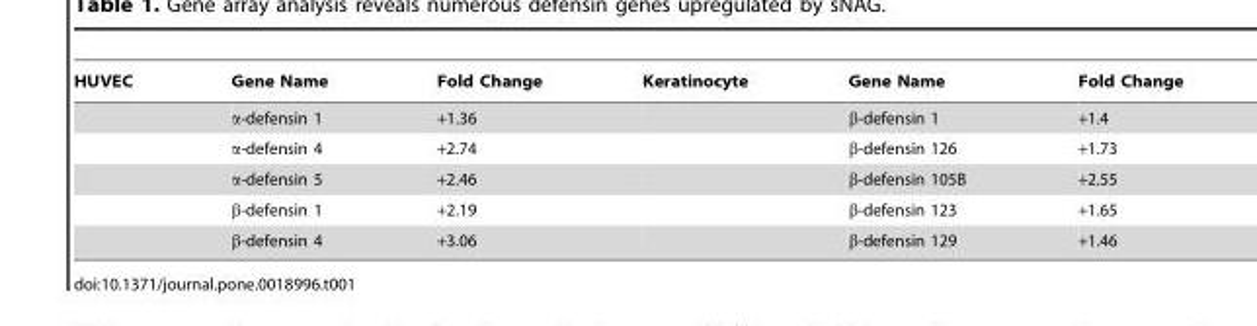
<table><thead><tr><td>HUVEC</td><td>Gene Name</td><td>Fold Change</td><td>Keratinocyte</td><td>Gene Name</td><td>Fold Change</td></tr></thead><tbody><tr><td></td><td>α-defensin 1</td><td>+1.36</td><td></td><td>β-defensin 1</td><td>+1.4</td></tr><tr><td></td><td>α-defensin 4</td><td>+2.74</td><td></td><td>β-defensin 126</td><td>+1.73</td></tr><tr><td></td><td>α-defensin 5</td><td>+2.46</td><td></td><td>β-defensin 105B</td><td>+2.55</td></tr><tr><td></td><td>β-defensin 1</td><td>+2.19</td><td></td><td>β-defensin 123</td><td>+1.65</td></tr><tr><td></td><td>β-defensin 4</td><td>+3.06</td><td></td><td>β-defensin 129</td><td>+1.46</td></tr></tbody></table>